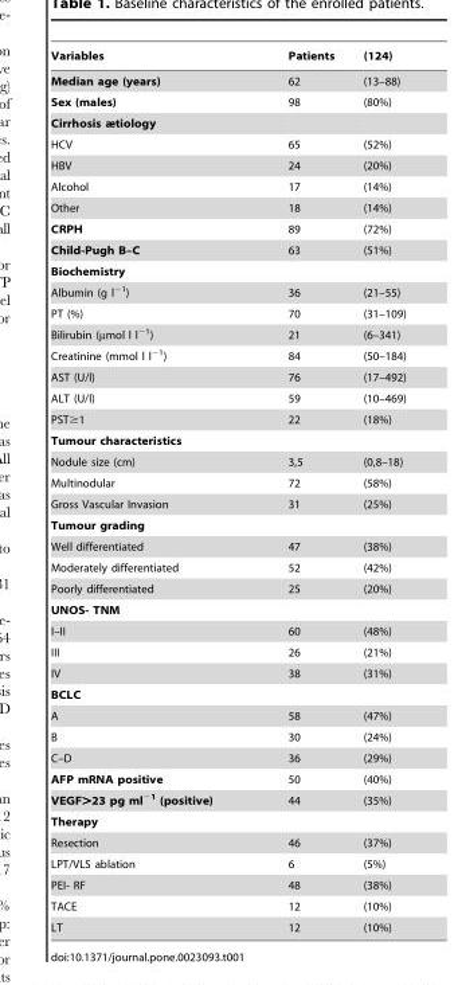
<table><thead><tr><td>Variables</td><td>Patients</td><td>(124)</td></tr></thead><tbody><tr><td>Median age (years)</td><td>62</td><td>(13–88)</td></tr><tr><td>Sex (males)</td><td>98</td><td>(80%)</td></tr><tr><td colspan="3">Cirrhosis ætiology</td></tr><tr><td>HCV</td><td>65</td><td>(52%)</td></tr><tr><td>HBV</td><td>24</td><td>(20%)</td></tr><tr><td>Alcohol</td><td>17</td><td>(14%)</td></tr><tr><td>Other</td><td>18</td><td>(14%)</td></tr><tr><td>CRPH</td><td>89</td><td>(72%)</td></tr><tr><td>Child-Pugh B–C</td><td>63</td><td>(51%)</td></tr><tr><td colspan="3">Biochemistry</td></tr><tr><td>Albumin (g l<sup>−1</sup>)</td><td>36</td><td>(21–55)</td></tr><tr><td>PT (%)</td><td>70</td><td>(31–109)</td></tr><tr><td>Bilirubin (µmol l l<sup>−1</sup>)</td><td>21</td><td>(6–341)</td></tr><tr><td>Creatinine (mmol l l<sup>−1</sup>)</td><td>84</td><td>(50–184)</td></tr><tr><td>AST (U/l)</td><td>76</td><td>(17–492)</td></tr><tr><td>ALT (U/l)</td><td>59</td><td>(10–469)</td></tr><tr><td>PST≥1</td><td>22</td><td>(18%)</td></tr><tr><td colspan="3">Tumour characteristics</td></tr><tr><td>Nodule size (cm)</td><td>3,5</td><td>(0,8–18)</td></tr><tr><td>Multinodular</td><td>72</td><td>(58%)</td></tr><tr><td>Gross Vascular Invasion</td><td>31</td><td>(25%)</td></tr><tr><td colspan="3">Tumour grading</td></tr><tr><td>Well differentiated</td><td>47</td><td>(38%)</td></tr><tr><td>Moderately differentiated</td><td>52</td><td>(42%)</td></tr><tr><td>Poorly differentiated</td><td>25</td><td>(20%)</td></tr><tr><td colspan="3">UNOS- TNM</td></tr><tr><td>I–II</td><td>60</td><td>(48%)</td></tr><tr><td>III</td><td>26</td><td>(21%)</td></tr><tr><td>IV</td><td>38</td><td>(31%)</td></tr><tr><td colspan="3">BCLC</td></tr><tr><td>A</td><td>58</td><td>(47%)</td></tr><tr><td>B</td><td>30</td><td>(24%)</td></tr><tr><td>C–D</td><td>36</td><td>(29%)</td></tr><tr><td>AFP mRNA positive</td><td>50</td><td>(40%)</td></tr><tr><td>VEGF&gt;23 pg ml<sup>−1</sup> (positive)</td><td>44</td><td>(35%)</td></tr><tr><td colspan="3">Therapy</td></tr><tr><td>Resection</td><td>46</td><td>(37%)</td></tr><tr><td>LPT/VLS ablation</td><td>6</td><td>(5%)</td></tr><tr><td>PEI- RF</td><td>48</td><td>(38%)</td></tr><tr><td>TACE</td><td>12</td><td>(10%)</td></tr><tr><td>LT</td><td>12</td><td>(10%)</td></tr></tbody></table>